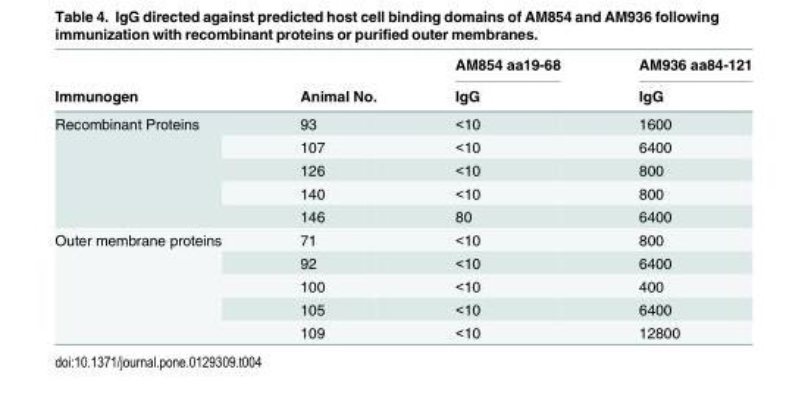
<table><thead><tr><td rowspan="2">Immunogen</td><td rowspan="2">Animal No.</td><td rowspan="2">AM854 aa19-68 IgG</td><td rowspan="2">AM936 aa84-121 IgG</td></tr><tr></tr></thead><tbody><tr><td rowspan="5">Recombinant Proteins</td><td>93</td><td>&lt;10</td><td>1600</td></tr><tr><td>107</td><td>&lt;10</td><td>6400</td></tr><tr><td>126</td><td>&lt;10</td><td>800</td></tr><tr><td>140</td><td>&lt;10</td><td>800</td></tr><tr><td>146</td><td>80</td><td>6400</td></tr><tr><td rowspan="5">Outer membrane proteins</td><td>71</td><td>&lt;10</td><td>800</td></tr><tr><td>92</td><td>&lt;10</td><td>6400</td></tr><tr><td>100</td><td>&lt;10</td><td>400</td></tr><tr><td>105</td><td>&lt;10</td><td>6400</td></tr><tr><td>109</td><td>&lt;10</td><td>12800</td></tr></tbody></table>